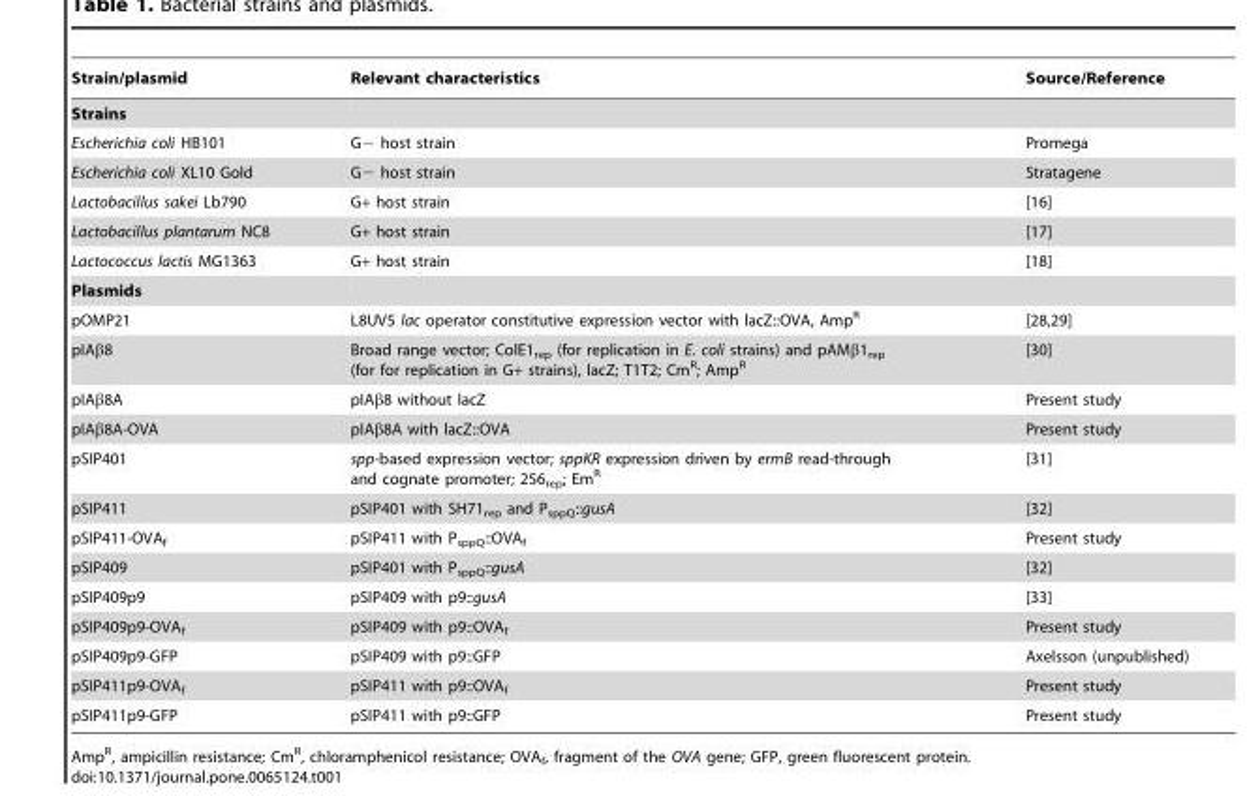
<table><thead><tr><td>Strain/plasmid</td><td>Relevant characteristics</td><td>Source/Reference</td></tr></thead><tbody><tr><td colspan="3">Strains</td></tr><tr><td>Escherichia coli HB101</td><td>G− host strain</td><td>Promega</td></tr><tr><td>Escherichia coli XL10 Gold</td><td>G− host strain</td><td>Stratagene</td></tr><tr><td>Lactobacillus sakei Lb790</td><td>G+ host strain</td><td>[16]</td></tr><tr><td>Lactobacillus plantarum NC8</td><td>G+ host strain</td><td>[17]</td></tr><tr><td>Lactococcus lactis MG1363</td><td>G+ host strain</td><td>[18]</td></tr><tr><td colspan="3">Plasmids</td></tr><tr><td>pOMP21</td><td>L8UV5 lac operator constitutive expression vector with lacZ::OVA, Amp<sup>R</sup></td><td>[28,29]</td></tr><tr><td>pIAβ8</td><td>Broad range vector; ColE1<sub>rep</sub> (for replication in E. coli strains) and pAMβ1<sub>rep</sub> (for for replication in G+ strains), lacZ; T1T2; Cm<sup>R</sup>; Amp<sup>R</sup></td><td>[30]</td></tr><tr><td>pIAβ8A</td><td>pIAβ8 without lacZ</td><td>Present study</td></tr><tr><td>pIAβ8A-OVA</td><td>pIAβ8A with lacZ::OVA</td><td>Present study</td></tr><tr><td>pSIP401</td><td>spp-based expression vector; sppKR expression driven by ermB read-through and cognate promoter; 256<sub>rep</sub>; Em<sup>R</sup></td><td>[31]</td></tr><tr><td>pSIP411</td><td>pSIP401 with SH71<sub>rep</sub> and P<sub>sppQ</sub>::gusA</td><td>[32]</td></tr><tr><td>pSIP411-OVA<sub>f</sub></td><td>pSIP411 with P<sub>sppQ</sub>::OVA<sub>f</sub></td><td>Present study</td></tr><tr><td>pSIP409</td><td>pSIP401 with P<sub>sppQ</sub>::gusA</td><td>[32]</td></tr><tr><td>pSIP409p9</td><td>pSIP409 with p9::gusA</td><td>[33]</td></tr><tr><td>pSIP409p9-OVA<sub>f</sub></td><td>pSIP409 with p9::OVA<sub>f</sub></td><td>Present study</td></tr><tr><td>pSIP409p9-GFP</td><td>pSIP409 with p9::GFP</td><td>Axelsson (unpublished)</td></tr><tr><td>pSIP411p9-OVA<sub>f</sub></td><td>pSIP411 with p9::OVA<sub>f</sub></td><td>Present study</td></tr><tr><td>pSIP411p9-GFP</td><td>pSIP411 with p9::GFP</td><td>Present study</td></tr></tbody></table>